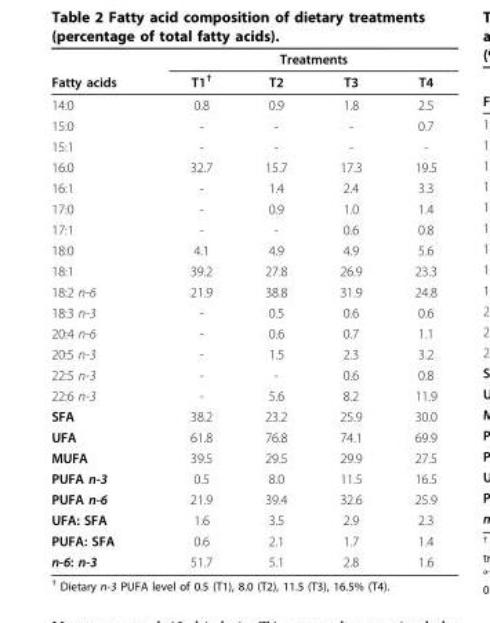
<table><thead><tr><td rowspan="2">Fatty acids</td><td colspan="4">Treatments</td></tr><tr><td>T1<sup>†</sup></td><td>T2</td><td>T3</td><td>T4</td></tr></thead><tbody><tr><td>14:0</td><td>0.8</td><td>0.9</td><td>1.8</td><td>2.5</td></tr><tr><td>15:0</td><td>-</td><td>-</td><td>-</td><td>0.7</td></tr><tr><td>15:1</td><td>-</td><td>-</td><td>-</td><td>-</td></tr><tr><td>16:0</td><td>32.7</td><td>15.7</td><td>17.3</td><td>19.5</td></tr><tr><td>16:1</td><td>-</td><td>1.4</td><td>2.4</td><td>3.3</td></tr><tr><td>17:0</td><td>-</td><td>0.9</td><td>1.0</td><td>1.4</td></tr><tr><td>17:1</td><td>-</td><td>-</td><td>0.6</td><td>0.8</td></tr><tr><td>18:0</td><td>4.1</td><td>4.9</td><td>4.9</td><td>5.6</td></tr><tr><td>18:1</td><td>39.2</td><td>27.8</td><td>26.9</td><td>23.3</td></tr><tr><td>18:2 n-6</td><td>21.9</td><td>38.8</td><td>31.9</td><td>24.8</td></tr><tr><td>18:3 n-3</td><td>-</td><td>0.5</td><td>0.6</td><td>0.6</td></tr><tr><td>20:4 n-6</td><td>-</td><td>0.6</td><td>0.7</td><td>1.1</td></tr><tr><td>20:5 n-3</td><td>-</td><td>1.5</td><td>2.3</td><td>3.2</td></tr><tr><td>22:5 n-3</td><td>-</td><td>-</td><td>0.6</td><td>0.8</td></tr><tr><td>22:6 n-3</td><td>-</td><td>5.6</td><td>8.2</td><td>11.9</td></tr><tr><td>SFA</td><td>38.2</td><td>23.2</td><td>25.9</td><td>30.0</td></tr><tr><td>UFA</td><td>61.8</td><td>76.8</td><td>74.1</td><td>69.9</td></tr><tr><td>MUFA</td><td>39.5</td><td>29.5</td><td>29.9</td><td>27.5</td></tr><tr><td>PUFA n-3</td><td>0.5</td><td>8.0</td><td>11.5</td><td>16.5</td></tr><tr><td>PUFA n-6</td><td>21.9</td><td>39.4</td><td>32.6</td><td>25.9</td></tr><tr><td>UFA: SFA</td><td>1.6</td><td>3.5</td><td>2.9</td><td>2.3</td></tr><tr><td>PUFA: SFA</td><td>0.6</td><td>2.1</td><td>1.7</td><td>1.4</td></tr><tr><td>n-6: n-3</td><td>51.7</td><td>5.1</td><td>2.8</td><td>1.6</td></tr></tbody></table>